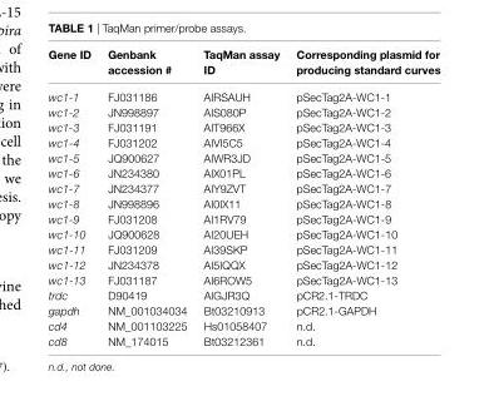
<table><thead><tr><td>gene iD</td><td>genbank accession #</td><td>TaqMan assay iD</td><td>corresponding plasmid for producing standard curves</td></tr></thead><tbody><tr><td>wc1-1</td><td>FJ031186</td><td>AIRSAUH</td><td>pSecTag2A-WC1-1</td></tr><tr><td>wc1-2</td><td>JN998897</td><td>AIS080P</td><td>pSecTag2A-WC1-2</td></tr><tr><td>wc1-3</td><td>FJ031191</td><td>AIT966X</td><td>pSecTag2A-WC1-3</td></tr><tr><td>wc1-4</td><td>FJ031202</td><td>AIVI5C5</td><td>pSecTag2A-WC1-4</td></tr><tr><td>wc1-5</td><td>JQ900627</td><td>AIWR3JD</td><td>pSecTag2A-WC1-5</td></tr><tr><td>wc1-6</td><td>JN234380</td><td>AIX01PL</td><td>pSecTag2A-WC1-6</td></tr><tr><td>wc1-7</td><td>JN234377</td><td>AIY9ZVT</td><td>pSecTag2A-WC1-7</td></tr><tr><td>wc1-8</td><td>JN998896</td><td>AI0IX11</td><td>pSecTag2A-WC1-8</td></tr><tr><td>wc1-9</td><td>FJ031208</td><td>AI1RV79</td><td>pSecTag2A-WC1-9</td></tr><tr><td>wc1-10</td><td>JQ900628</td><td>AI20UEH</td><td>pSecTag2A-WC1-10</td></tr><tr><td>wc1-11</td><td>FJ031209</td><td>AI39SKP</td><td>pSecTag2A-WC1-11</td></tr><tr><td>wc1-12</td><td>JN234378</td><td>AI5IQQX</td><td>pSecTag2A-WC1-12</td></tr><tr><td>wc1-13</td><td>FJ031187</td><td>AI6ROW5</td><td>pSecTag2A-WC1-13</td></tr><tr><td>trdc</td><td>D90419</td><td>AIGJR3Q</td><td>pCR2.1-TRDC</td></tr><tr><td>gapdh</td><td>NM_001034034</td><td>Bt03210913</td><td>pCR2.1-GAPDH</td></tr><tr><td>cd4</td><td>NM_001103225</td><td>Hs01058407</td><td>n.d.</td></tr><tr><td>cd8</td><td>NM_174015</td><td>Bt03212361</td><td>n.d.</td></tr></tbody></table>